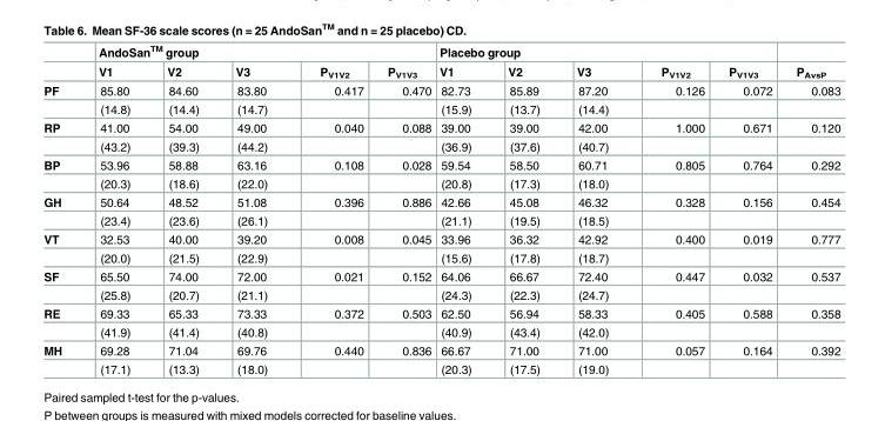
<table><thead><tr><td rowspan="2"></td><td colspan="5">AndoSan<sup>TM</sup> group</td><td colspan="5">Placebo group</td><td rowspan="2">P<sub>AvsP</sub></td></tr><tr><td>V1</td><td>V2</td><td>V3</td><td>P<sub>V1V2</sub></td><td>P<sub>V1V3</sub></td><td>V1</td><td>V2</td><td>V3</td><td>P<sub>V1V2</sub></td><td>P<sub>V1V3</sub></td></tr></thead><tbody><tr><td rowspan="2">PF</td><td>85.80</td><td>84.60</td><td>83.80</td><td>0.417</td><td>0.470</td><td>82.73</td><td>85.89</td><td>87.20</td><td>0.126</td><td>0.072</td><td>0.083</td></tr><tr><td>(14.8)</td><td>(14.4)</td><td>(14.7)</td><td></td><td></td><td>(15.9)</td><td>(13.7)</td><td>(14.4)</td><td></td><td></td><td></td></tr><tr><td rowspan="2">RP</td><td>41.00</td><td>54.00</td><td>49.00</td><td>0.040</td><td>0.088</td><td>39.00</td><td>39.00</td><td>42.00</td><td>1.000</td><td>0.671</td><td>0.120</td></tr><tr><td>(43.2)</td><td>(39.3)</td><td>(44.2)</td><td></td><td></td><td>(36.9)</td><td>(37.6)</td><td>(40.7)</td><td></td><td></td><td></td></tr><tr><td rowspan="2">BP</td><td>53.96</td><td>58.88</td><td>63.16</td><td>0.108</td><td>0.028</td><td>59.54</td><td>58.50</td><td>60.71</td><td>0.805</td><td>0.764</td><td>0.292</td></tr><tr><td>(20.3)</td><td>(18.6)</td><td>(22.0)</td><td></td><td></td><td>(20.8)</td><td>(17.3)</td><td>(18.0)</td><td></td><td></td><td></td></tr><tr><td rowspan="2">GH</td><td>50.64</td><td>48.52</td><td>51.08</td><td>0.396</td><td>0.886</td><td>42.66</td><td>45.08</td><td>46.32</td><td>0.328</td><td>0.156</td><td>0.454</td></tr><tr><td>(23.4)</td><td>(23.6)</td><td>(26.1)</td><td></td><td></td><td>(21.1)</td><td>(19.5)</td><td>(18.5)</td><td></td><td></td><td></td></tr><tr><td rowspan="2">VT</td><td>32.53</td><td>40.00</td><td>39.20</td><td>0.008</td><td>0.045</td><td>33.96</td><td>36.32</td><td>42.92</td><td>0.400</td><td>0.019</td><td>0.777</td></tr><tr><td>(20.0)</td><td>(21.5)</td><td>(22.9)</td><td></td><td></td><td>(15.6)</td><td>(17.8)</td><td>(18.7)</td><td></td><td></td><td></td></tr><tr><td rowspan="2">SF</td><td>65.50</td><td>74.00</td><td>72.00</td><td>0.021</td><td>0.152</td><td>64.06</td><td>66.67</td><td>72.40</td><td>0.447</td><td>0.032</td><td>0.537</td></tr><tr><td>(25.8)</td><td>(20.7)</td><td>(21.1)</td><td></td><td></td><td>(24.3)</td><td>(22.3)</td><td>(24.7)</td><td></td><td></td><td></td></tr><tr><td rowspan="2">RE</td><td>69.33</td><td>65.33</td><td>73.33</td><td>0.372</td><td>0.503</td><td>62.50</td><td>56.94</td><td>58.33</td><td>0.405</td><td>0.588</td><td>0.358</td></tr><tr><td>(41.9)</td><td>(41.4)</td><td>(40.8)</td><td></td><td></td><td>(40.9)</td><td>(43.4)</td><td>(42.0)</td><td></td><td></td><td></td></tr><tr><td rowspan="2">MH</td><td>69.28</td><td>71.04</td><td>69.76</td><td>0.440</td><td>0.836</td><td>66.67</td><td>71.00</td><td>71.00</td><td>0.057</td><td>0.164</td><td>0.392</td></tr><tr><td>(17.1)</td><td>(13.3)</td><td>(18.0)</td><td></td><td></td><td>(20.3)</td><td>(17.5)</td><td>(19.0)</td><td></td><td></td><td></td></tr></tbody></table>